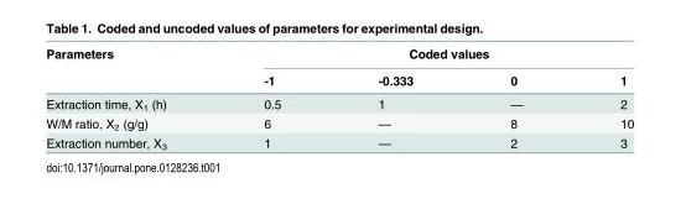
<table><thead><tr><td rowspan="2">Parameters</td><td colspan="4">Coded values</td></tr><tr><td>-1</td><td>-0.333</td><td>0</td><td>1</td></tr></thead><tbody><tr><td>Extraction time, X<sub>1</sub> (h)</td><td>0.5</td><td>1</td><td>—</td><td>2</td></tr><tr><td>W/M ratio, X<sub>2</sub> (g/g)</td><td>6</td><td>—</td><td>8</td><td>10</td></tr><tr><td>Extraction number, X<sub>3</sub></td><td>1</td><td>—</td><td>2</td><td>3</td></tr></tbody></table>